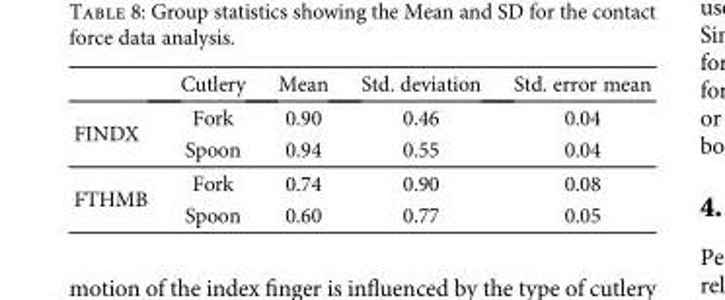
<table><thead><tr><td></td><td>Cutlery</td><td>Mean</td><td>Std. deviation</td><td>Std. error mean</td></tr></thead><tbody><tr><td rowspan="2">FINDX</td><td>Fork</td><td>0.90</td><td>0.46</td><td>0.04</td></tr><tr><td>Spoon</td><td>0.94</td><td>0.55</td><td>0.04</td></tr><tr><td rowspan="2">FTHMB</td><td>Fork</td><td>0.74</td><td>0.90</td><td>0.08</td></tr><tr><td>Spoon</td><td>0.60</td><td>0.77</td><td>0.05</td></tr></tbody></table>